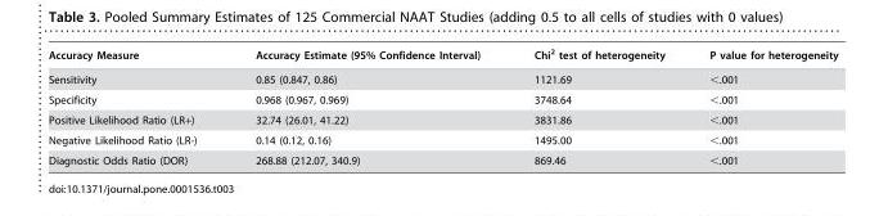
<table><thead><tr><td>Accuracy Measure</td><td>Accuracy Estimate (95% Confidence Interval)</td><td>Chi<sup>2</sup> test of heterogeneity</td><td>P value for heterogeneity</td></tr></thead><tbody><tr><td>Sensitivity</td><td>0.85 (0.847, 0.86)</td><td>1121.69</td><td>&lt;.001</td></tr><tr><td>Specificity</td><td>0.968 (0.967, 0.969)</td><td>3748.64</td><td>&lt;.001</td></tr><tr><td>Positive Likelihood Ratio (LR+)</td><td>32.74 (26.01, 41.22)</td><td>3831.86</td><td>&lt;.001</td></tr><tr><td>Negative Likelihood Ratio (LR-)</td><td>0.14 (0.12, 0.16)</td><td>1495.00</td><td>&lt;.001</td></tr><tr><td>Diagnostic Odds Ratio (DOR)</td><td>268.88 (212.07, 340.9)</td><td>869.46</td><td>&lt;.001</td></tr></tbody></table>